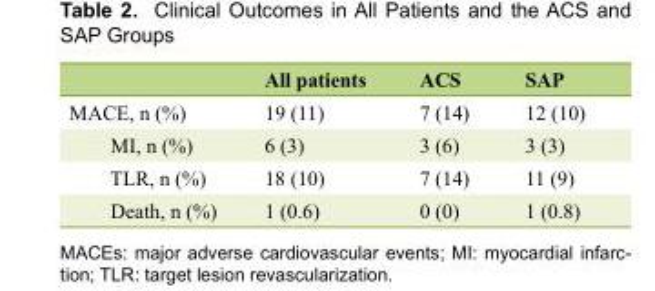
<table><thead><tr><td></td><td>All patients</td><td>ACS</td><td>SAP</td></tr></thead><tbody><tr><td>MACE, n (%)</td><td>19 (11)</td><td>7 (14)</td><td>12 (10)</td></tr><tr><td>MI, n (%)</td><td>6 (3)</td><td>3 (6)</td><td>3 (3)</td></tr><tr><td>TLR, n (%)</td><td>18 (10)</td><td>7 (14)</td><td>11 (9)</td></tr><tr><td>Death, n (%)</td><td>1 (0.6)</td><td>0 (0)</td><td>1 (0.8)</td></tr></tbody></table>